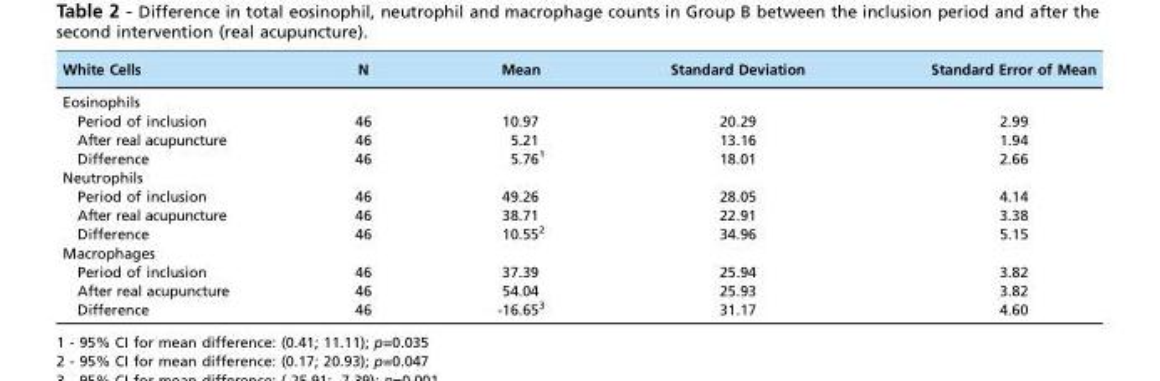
<table><thead><tr><td>White Cells</td><td>N</td><td>Mean</td><td>Standard Deviation</td><td>Standard Error of Mean</td></tr></thead><tbody><tr><td colspan="5">Eosinophils</td></tr><tr><td>Period of inclusion</td><td>46</td><td>10.97</td><td>20.29</td><td>2.99</td></tr><tr><td>After real acupuncture</td><td>46</td><td>5.21</td><td>13.16</td><td>1.94</td></tr><tr><td>Difference</td><td>46</td><td>5.76<sup>1</sup></td><td>18.01</td><td>2.66</td></tr><tr><td colspan="5">Neutrophils</td></tr><tr><td>Period of inclusion</td><td>46</td><td>49.26</td><td>28.05</td><td>4.14</td></tr><tr><td>After real acupuncture</td><td>46</td><td>38.71</td><td>22.91</td><td>3.38</td></tr><tr><td>Difference</td><td>46</td><td>10.55<sup>2</sup></td><td>34.96</td><td>5.15</td></tr><tr><td colspan="5">Macrophages</td></tr><tr><td>Period of inclusion</td><td>46</td><td>37.39</td><td>25.94</td><td>3.82</td></tr><tr><td>After real acupuncture</td><td>46</td><td>54.04</td><td>25.93</td><td>3.82</td></tr><tr><td>Difference</td><td>46</td><td>-16.65<sup>3</sup></td><td>31.17</td><td>4.60</td></tr></tbody></table>